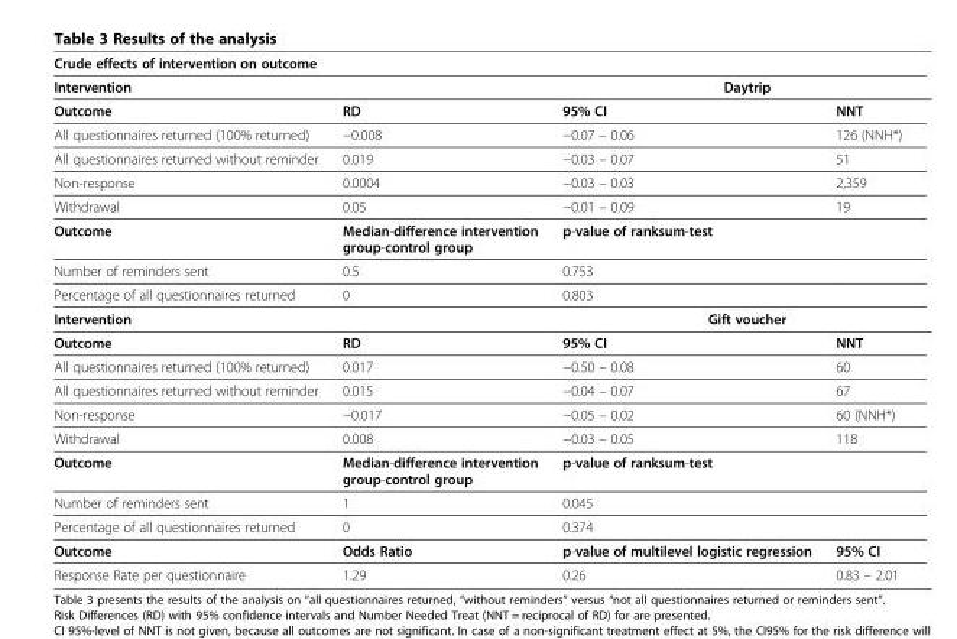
<table><thead><tr><td colspan="4">Crude effects of intervention on outcome</td></tr><tr><td rowspan="2">Intervention Outcome</td><td colspan="3">Daytrip</td></tr><tr><td>RD</td><td>95% CI</td><td>NNT</td></tr></thead><tbody><tr><td>All questionnaires returned (100% returned)</td><td>−0.008</td><td>−0.07 – 0.06</td><td>126 (NNH*)</td></tr><tr><td>All questionnaires returned without reminder</td><td>0.019</td><td>−0.03 – 0.07</td><td>51</td></tr><tr><td>Non-response</td><td>0.0004</td><td>−0.03 – 0.03</td><td>2,359</td></tr><tr><td>Withdrawal</td><td>0.05</td><td>−0.01 – 0.09</td><td>19</td></tr><tr><td>Outcome</td><td>Median-difference intervention group-control group</td><td>p-value of ranksum-test</td><td></td></tr><tr><td>Number of reminders sent</td><td>0.5</td><td>0.753</td><td></td></tr><tr><td>Percentage of all questionnaires returned</td><td>0</td><td>0.803</td><td></td></tr><tr><td>Intervention</td><td colspan="3">Gift voucher</td></tr><tr><td>Outcome</td><td>RD</td><td>95% CI</td><td>NNT</td></tr><tr><td>All questionnaires returned (100% returned)</td><td>0.017</td><td>−0.50 – 0.08</td><td>60</td></tr><tr><td>All questionnaires returned without reminder</td><td>0.015</td><td>−0.04 – 0.07</td><td>67</td></tr><tr><td>Non-response</td><td>−0.017</td><td>−0.05 – 0.02</td><td>60 (NNH*)</td></tr><tr><td>Withdrawal</td><td>0.008</td><td>−0.03 – 0.05</td><td>118</td></tr><tr><td>Outcome</td><td>Median-difference intervention group-control group</td><td>p-value of ranksum-test</td><td></td></tr><tr><td>Number of reminders sent</td><td>1</td><td>0.045</td><td></td></tr><tr><td>Percentage of all questionnaires returned</td><td>0</td><td>0.374</td><td></td></tr><tr><td>Outcome</td><td>Odds Ratio</td><td>p-value of multilevel logistic regression</td><td>95% CI</td></tr><tr><td>Response Rate per questionnaire</td><td>1.29</td><td>0.26</td><td>0.83 – 2.01</td></tr></tbody></table>